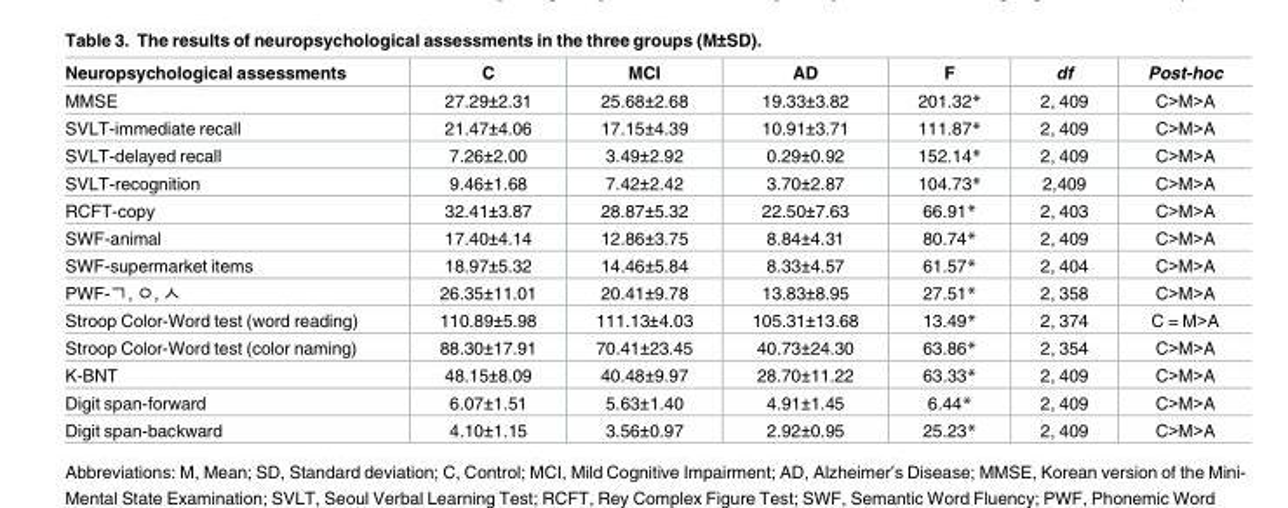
<table><thead><tr><td>Neuropsychological assessments</td><td>C</td><td>MCI</td><td>AD</td><td>F</td><td>df</td><td>Post-hoc</td></tr></thead><tbody><tr><td>MMSE</td><td>27.29±2.31</td><td>25.68±2.68</td><td>19.33±3.82</td><td>201.32*</td><td>2, 409</td><td>C&gt;M&gt;A</td></tr><tr><td>SVLT-immediate recall</td><td>21.47±4.06</td><td>17.15±4.39</td><td>10.91±3.71</td><td>111.87*</td><td>2, 409</td><td>C&gt;M&gt;A</td></tr><tr><td>SVLT-delayed recall</td><td>7.26±2.00</td><td>3.49±2.92</td><td>0.29±0.92</td><td>152.14*</td><td>2, 409</td><td>C&gt;M&gt;A</td></tr><tr><td>SVLT-recognition</td><td>9.46±1.68</td><td>7.42±2.42</td><td>3.70±2.87</td><td>104.73*</td><td>2,409</td><td>C&gt;M&gt;A</td></tr><tr><td>RCFT-copy</td><td>32.41±3.87</td><td>28.87±5.32</td><td>22.50±7.63</td><td>66.91*</td><td>2, 403</td><td>C&gt;M&gt;A</td></tr><tr><td>SWF-animal</td><td>17.40±4.14</td><td>12.86±3.75</td><td>8.84±4.31</td><td>80.74*</td><td>2, 409</td><td>C&gt;M&gt;A</td></tr><tr><td>SWF-supermarket items</td><td>18.97±5.32</td><td>14.46±5.84</td><td>8.33±4.57</td><td>61.57*</td><td>2, 404</td><td>C&gt;M&gt;A</td></tr><tr><td>PWF-ㄱ, ㅇ, ㅅ</td><td>26.35±11.01</td><td>20.41±9.78</td><td>13.83±8.95</td><td>27.51*</td><td>2, 358</td><td>C&gt;M&gt;A</td></tr><tr><td>Stroop Color-Word test (word reading)</td><td>110.89±5.98</td><td>111.13±4.03</td><td>105.31±13.68</td><td>13.49*</td><td>2, 374</td><td>C = M&gt;A</td></tr><tr><td>Stroop Color-Word test (color naming)</td><td>88.30±17.91</td><td>70.41±23.45</td><td>40.73±24.30</td><td>63.86*</td><td>2, 354</td><td>C&gt;M&gt;A</td></tr><tr><td>K-BNT</td><td>48.15±8.09</td><td>40.48±9.97</td><td>28.70±11.22</td><td>63.33*</td><td>2, 409</td><td>C&gt;M&gt;A</td></tr><tr><td>Digit span-forward</td><td>6.07±1.51</td><td>5.63±1.40</td><td>4.91±1.45</td><td>6.44*</td><td>2, 409</td><td>C&gt;M&gt;A</td></tr><tr><td>Digit span-backward</td><td>4.10±1.15</td><td>3.56±0.97</td><td>2.92±0.95</td><td>25.23*</td><td>2, 409</td><td>C&gt;M&gt;A</td></tr></tbody></table>